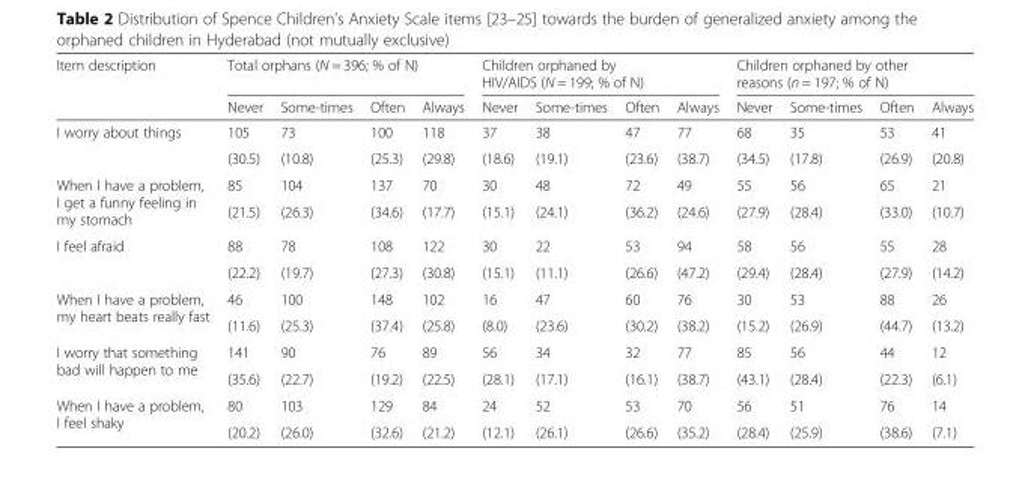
<table><thead><tr><td rowspan="2">Item description</td><td colspan="4">Total orphans (N = 396; % of N)</td><td colspan="4">Children orphaned by HIV/AIDS (N = 199; % of N)</td><td colspan="4">Children orphaned by other reasons (n = 197; % of N)</td></tr><tr><td>Never</td><td>Some-times</td><td>Often</td><td>Always</td><td>Never</td><td>Some-times</td><td>Often</td><td>Always</td><td>Never</td><td>Some-times</td><td>Often</td><td>Always</td></tr></thead><tbody><tr><td rowspan="2">I worry about things</td><td>105</td><td>73</td><td>100</td><td>118</td><td>37</td><td>38</td><td>47</td><td>77</td><td>68</td><td>35</td><td>53</td><td>41</td></tr><tr><td>(30.5)</td><td>(10.8)</td><td>(25.3)</td><td>(29.8)</td><td>(18.6)</td><td>(19.1)</td><td>(23.6)</td><td>(38.7)</td><td>(34.5)</td><td>(17.8)</td><td>(26.9)</td><td>(20.8)</td></tr><tr><td rowspan="2">When I have a problem, I get a funny feeling in my stomach</td><td>85</td><td>104</td><td>137</td><td>70</td><td>30</td><td>48</td><td>72</td><td>49</td><td>55</td><td>56</td><td>65</td><td>21</td></tr><tr><td>(21.5)</td><td>(26.3)</td><td>(34.6)</td><td>(17.7)</td><td>(15.1)</td><td>(24.1)</td><td>(36.2)</td><td>(24.6)</td><td>(27.9)</td><td>(28.4)</td><td>(33.0)</td><td>(10.7)</td></tr><tr><td rowspan="2">I feel afraid</td><td>88</td><td>78</td><td>108</td><td>122</td><td>30</td><td>22</td><td>53</td><td>94</td><td>58</td><td>56</td><td>55</td><td>28</td></tr><tr><td>(22.2)</td><td>(19.7)</td><td>(27.3)</td><td>(30.8)</td><td>(15.1)</td><td>(11.1)</td><td>(26.6)</td><td>(47.2)</td><td>(29.4)</td><td>(28.4)</td><td>(27.9)</td><td>(14.2)</td></tr><tr><td rowspan="2">When I have a problem, my heart beats really fast</td><td>46</td><td>100</td><td>148</td><td>102</td><td>16</td><td>47</td><td>60</td><td>76</td><td>30</td><td>53</td><td>88</td><td>26</td></tr><tr><td>(11.6)</td><td>(25.3)</td><td>(37.4)</td><td>(25.8)</td><td>(8.0)</td><td>(23.6)</td><td>(30.2)</td><td>(38.2)</td><td>(15.2)</td><td>(26.9)</td><td>(44.7)</td><td>(13.2)</td></tr><tr><td rowspan="2">I worry that something bad will happen to me</td><td>141</td><td>90</td><td>76</td><td>89</td><td>56</td><td>34</td><td>32</td><td>77</td><td>85</td><td>56</td><td>44</td><td>12</td></tr><tr><td>(35.6)</td><td>(22.7)</td><td>(19.2)</td><td>(22.5)</td><td>(28.1)</td><td>(17.1)</td><td>(16.1)</td><td>(38.7)</td><td>(43.1)</td><td>(28.4)</td><td>(22.3)</td><td>(6.1)</td></tr><tr><td rowspan="2">When I have a problem, I feel shaky</td><td>80</td><td>103</td><td>129</td><td>84</td><td>24</td><td>52</td><td>53</td><td>70</td><td>56</td><td>51</td><td>76</td><td>14</td></tr><tr><td>(20.2)</td><td>(26.0)</td><td>(32.6)</td><td>(21.2)</td><td>(12.1)</td><td>(26.1)</td><td>(26.6)</td><td>(35.2)</td><td>(28.4)</td><td>(25.9)</td><td>(38.6)</td><td>(7.1)</td></tr></tbody></table>